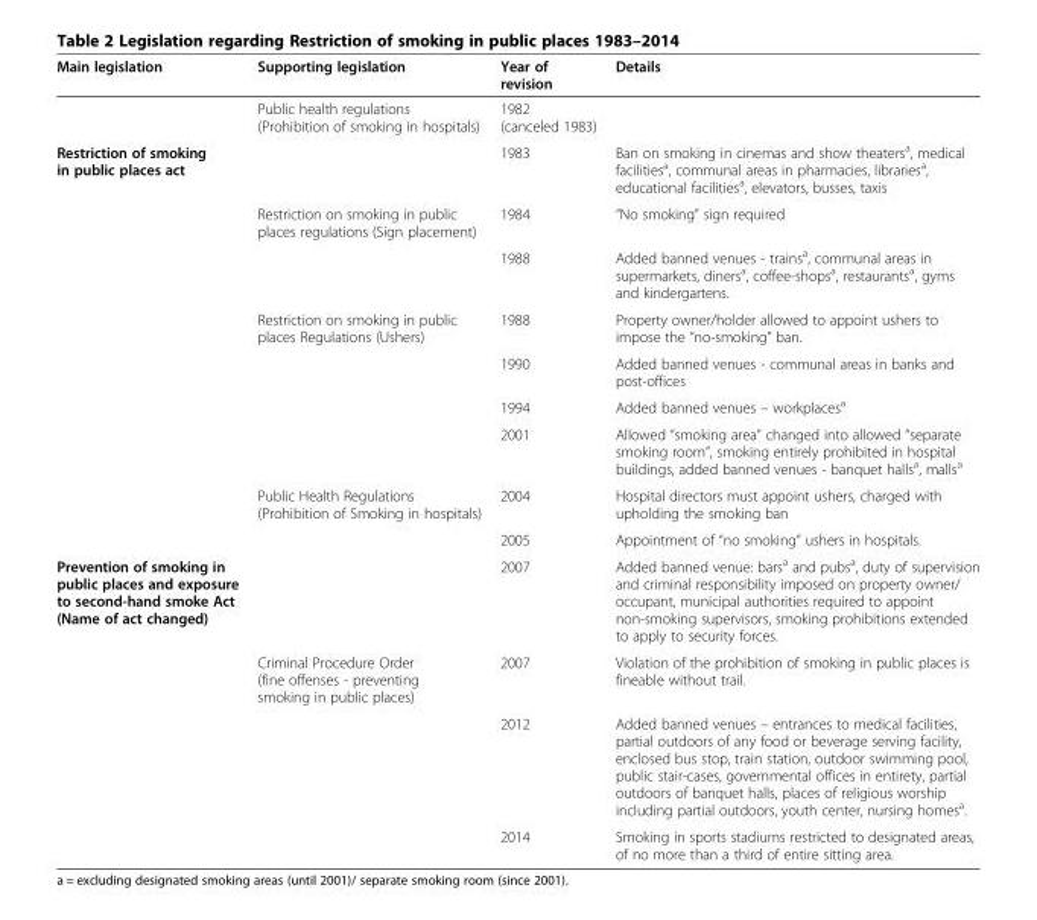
<table><thead><tr><td>Main legislation</td><td>Supporting legislation</td><td>Year of revision</td><td>Details</td></tr></thead><tbody><tr><td></td><td>Public health regulations (Prohibition of smoking in hospitals)</td><td>1982 (canceled 1983)</td><td></td></tr><tr><td rowspan="9">Restriction of smoking in public places act</td><td></td><td>1983</td><td>Ban on smoking in cinemas and show theaters<sup>a</sup>, medical facilities<sup>a</sup>, communal areas in pharmacies, libraries<sup>a</sup>, educational facilities<sup>a</sup>, elevators, busses, taxis</td></tr><tr><td>Restriction on smoking in public places regulations (Sign placement)</td><td>1984</td><td>“No smoking” sign required</td></tr><tr><td></td><td>1988</td><td>Added banned venues - trains<sup>a</sup>, communal areas in supermarkets, diners<sup>a</sup>, coffee-shops<sup>a</sup>, restaurants<sup>a</sup>, gyms and kindergartens.</td></tr><tr><td>Restriction on smoking in public places Regulations (Ushers)</td><td>1988</td><td>Property owner/holder allowed to appoint ushers to impose the “no-smoking” ban.</td></tr><tr><td></td><td>1990</td><td>Added banned venues - communal areas in banks and post-offices</td></tr><tr><td></td><td>1994</td><td>Added banned venues – workplaces<sup>a</sup></td></tr><tr><td></td><td>2001</td><td>Allowed “smoking area” changed into allowed “separate smoking room”, smoking entirely prohibited in hospital buildings, added banned venues - banquet halls<sup>a</sup>, malls<sup>a</sup></td></tr><tr><td>Public Health Regulations (Prohibition of Smoking in hospitals)</td><td>2004</td><td>Hospital directors must appoint ushers, charged with upholding the smoking ban</td></tr><tr><td></td><td>2005</td><td>Appointment of “no smoking” ushers in hospitals.</td></tr><tr><td rowspan="4">Prevention of smoking in public places and exposure to second-hand smoke Act (Name of act changed)</td><td></td><td>2007</td><td>Added banned venue: bars<sup>a</sup> and pubs<sup>a</sup>, duty of supervision and criminal responsibility imposed on property owner/ occupant, municipal authorities required to appoint non-smoking supervisors, smoking prohibitions extended to apply to security forces.</td></tr><tr><td>Criminal Procedure Order (fine offenses - preventing smoking in public places)</td><td>2007</td><td>Violation of the prohibition of smoking in public places is fineable without trail.</td></tr><tr><td></td><td>2012</td><td>Added banned venues – entrances to medical facilities, partial outdoors of any food or beverage serving facility, enclosed bus stop, train station, outdoor swimming pool, public stair-cases, governmental offices in entirety, partial outdoors of banquet halls, places of religious worship including partial outdoors, youth center, nursing homes<sup>a</sup>.</td></tr><tr><td></td><td>2014</td><td>Smoking in sports stadiums restricted to designated areas, of no more than a third of entire sitting area.</td></tr></tbody></table>